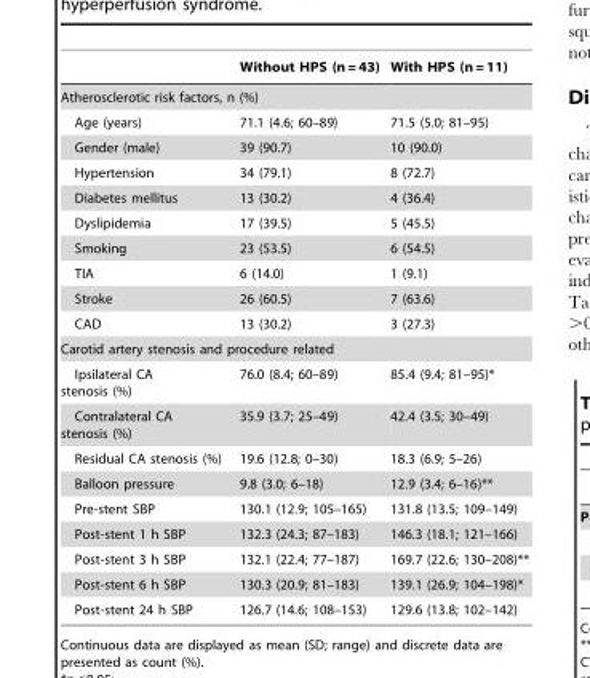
<table><thead><tr><td></td><td>Without HPS (n = 43)</td><td>With HPS (n = 11)</td></tr></thead><tbody><tr><td colspan="3">Atherosclerotic risk factors, n (%)</td></tr><tr><td>Age (years)</td><td>71.1 (4.6; 60–89)</td><td>71.5 (5.0; 81–95)</td></tr><tr><td>Gender (male)</td><td>39 (90.7)</td><td>10 (90.0)</td></tr><tr><td>Hypertension</td><td>34 (79.1)</td><td>8 (72.7)</td></tr><tr><td>Diabetes mellitus</td><td>13 (30.2)</td><td>4 (36.4)</td></tr><tr><td>Dyslipidemia</td><td>17 (39.5)</td><td>5 (45.5)</td></tr><tr><td>Smoking</td><td>23 (53.5)</td><td>6 (54.5)</td></tr><tr><td>TIA</td><td>6 (14.0)</td><td>1 (9.1)</td></tr><tr><td>Stroke</td><td>26 (60.5)</td><td>7 (63.6)</td></tr><tr><td>CAD</td><td>13 (30.2)</td><td>3 (27.3)</td></tr><tr><td colspan="3">Carotid artery stenosis and procedure related</td></tr><tr><td>Ipsilateral CA stenosis (%)</td><td>76.0 (8.4; 60–89)</td><td>85.4 (9.4; 81–95)*</td></tr><tr><td>Contralateral CA stenosis (%)</td><td>35.9 (3.7; 25–49)</td><td>42.4 (3.5; 30–49)</td></tr><tr><td>Residual CA stenosis (%)</td><td>19.6 (12.8; 0–30)</td><td>18.3 (6.9; 5–26)</td></tr><tr><td>Balloon pressure</td><td>9.8 (3.0; 6–18)</td><td>12.9 (3.4; 6–16)**</td></tr><tr><td>Pre-stent SBP</td><td>130.1 (12.9; 105–165)</td><td>131.8 (13.5; 109–149)</td></tr><tr><td>Post-stent 1 h SBP</td><td>132.3 (24.3; 87–183)</td><td>146.3 (18.1; 121–166)</td></tr><tr><td>Post-stent 3 h SBP</td><td>132.1 (22.4; 77–187)</td><td>169.7 (22.6; 130–208)**</td></tr><tr><td>Post-stent 6 h SBP</td><td>130.3 (20.9; 81–183)</td><td>139.1 (26.9; 104–198)*</td></tr><tr><td>Post-stent 24 h SBP</td><td>126.7 (14.6; 108–153)</td><td>129.6 (13.8; 102–142)</td></tr></tbody></table>